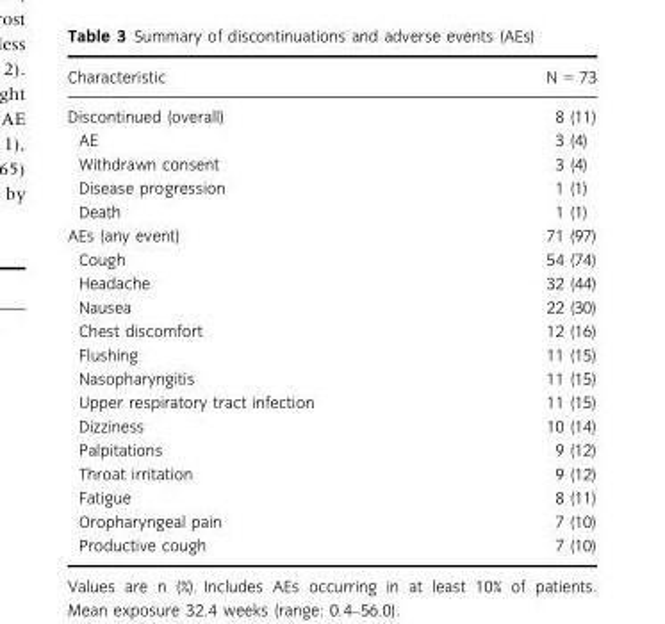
<table><thead><tr><td>Characteristic</td><td>N = 73</td></tr></thead><tbody><tr><td>Discontinued (overall)</td><td>8 (11)</td></tr><tr><td>AE</td><td>3 (4)</td></tr><tr><td>Withdrawn consent</td><td>3 (4)</td></tr><tr><td>Disease progression</td><td>1 (1)</td></tr><tr><td>Death</td><td>1 (1)</td></tr><tr><td>AEs (any event)</td><td>71 (97)</td></tr><tr><td>Cough</td><td>54 (74)</td></tr><tr><td>Headache</td><td>32 (44)</td></tr><tr><td>Nausea</td><td>22 (30)</td></tr><tr><td>Chest discomfort</td><td>12 (16)</td></tr><tr><td>Flushing</td><td>11 (15)</td></tr><tr><td>Nasopharyngitis</td><td>11 (15)</td></tr><tr><td>Upper respiratory tract infection</td><td>11 (15)</td></tr><tr><td>Dizziness</td><td>10 (14)</td></tr><tr><td>Palpitations</td><td>9 (12)</td></tr><tr><td>Throat irritation</td><td>9 (12)</td></tr><tr><td>Fatigue</td><td>8 (11)</td></tr><tr><td>Oropharyngeal pain</td><td>7 (10)</td></tr><tr><td>Productive cough</td><td>7 (10)</td></tr></tbody></table>